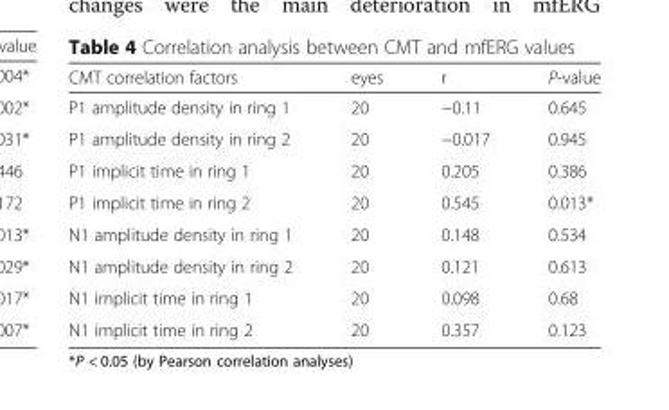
<table><thead><tr><td>CMT correlation factors</td><td>eyes</td><td>r</td><td>P-value</td></tr></thead><tbody><tr><td>P1 amplitude density in ring 1</td><td>20</td><td>−0.11</td><td>0.645</td></tr><tr><td>P1 amplitude density in ring 2</td><td>20</td><td>−0.017</td><td>0.945</td></tr><tr><td>P1 implicit time in ring 1</td><td>20</td><td>0.205</td><td>0.386</td></tr><tr><td>P1 implicit time in ring 2</td><td>20</td><td>0.545</td><td>0.013*</td></tr><tr><td>N1 amplitude density in ring 1</td><td>20</td><td>0.148</td><td>0.534</td></tr><tr><td>N1 amplitude density in ring 2</td><td>20</td><td>0.121</td><td>0.613</td></tr><tr><td>N1 implicit time in ring 1</td><td>20</td><td>0.098</td><td>0.68</td></tr><tr><td>N1 implicit time in ring 2</td><td>20</td><td>0.357</td><td>0.123</td></tr></tbody></table>